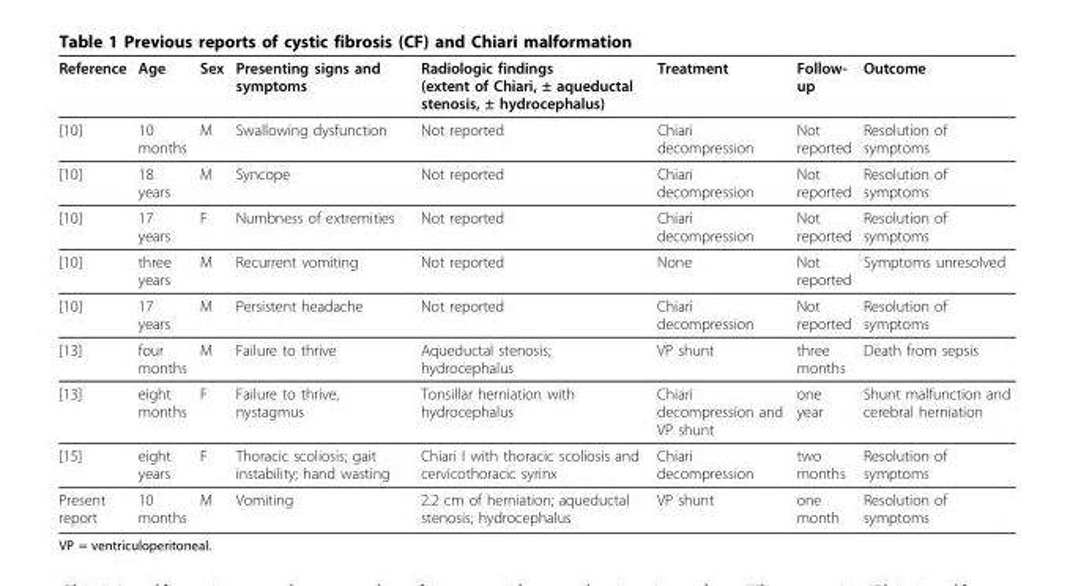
<table><thead><tr><td>Reference</td><td>Age</td><td>Sex</td><td>Presenting signs and symptoms</td><td>Radiologic findings (extent of Chiari, ± aqueductal stenosis, ± hydrocephalus)</td><td>Treatment</td><td>Follow- up</td><td>Outcome</td></tr></thead><tbody><tr><td>[10]</td><td>10 months</td><td>M</td><td>Swallowing dysfunction</td><td>Not reported</td><td>Chiari decompression</td><td>Not reported</td><td>Resolution of symptoms</td></tr><tr><td>[10]</td><td>18 years</td><td>M</td><td>Syncope</td><td>Not reported</td><td>Chiari decompression</td><td>Not reported</td><td>Resolution of symptoms</td></tr><tr><td>[10]</td><td>17 years</td><td>F</td><td>Numbness of extremities</td><td>Not reported</td><td>Chiari decompression</td><td>Not reported</td><td>Resolution of symptoms</td></tr><tr><td>[10]</td><td>three years</td><td>M</td><td>Recurrent vomiting</td><td>Not reported</td><td>None</td><td>Not reported</td><td>Symptoms unresolved</td></tr><tr><td>[10]</td><td>17 years</td><td>M</td><td>Persistent headache</td><td>Not reported</td><td>Chiari decompression</td><td>Not reported</td><td>Resolution of symptoms</td></tr><tr><td>[13]</td><td>four months</td><td>M</td><td>Failure to thrive</td><td>Aqueductal stenosis; hydrocephalus</td><td>VP shunt</td><td>three months</td><td>Death from sepsis</td></tr><tr><td>[13]</td><td>eight months</td><td>F</td><td>Failure to thrive, nystagmus</td><td>Tonsillar herniation with hydrocephalus</td><td>Chiari decompression and VP shunt</td><td>one year</td><td>Shunt malfunction and cerebral herniation</td></tr><tr><td>[15]</td><td>eight years</td><td>F</td><td>Thoracic scoliosis; gait instability; hand wasting</td><td>Chiari I with thoracic scoliosis and cervicothoracic syrinx</td><td>Chiari decompression</td><td>two months</td><td>Resolution of symptoms</td></tr><tr><td>Present report</td><td>10 months</td><td>M</td><td>Vomiting</td><td>2.2 cm of herniation; aqueductal stenosis; hydrocephalus</td><td>VP shunt</td><td>one month</td><td>Resolution of symptoms</td></tr></tbody></table>